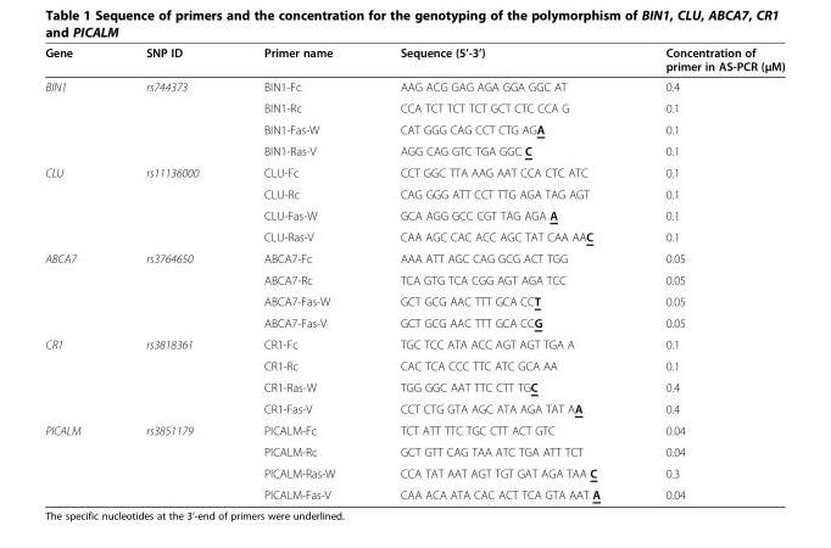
<table><thead><tr><td>Gene</td><td>SNP ID</td><td>Primer name</td><td>Sequence (5’-3’)</td><td>Concentration of primer in AS-PCR (μM)</td></tr></thead><tbody><tr><td rowspan="4">BIN1</td><td rowspan="4">rs744373</td><td>BIN1-Fc</td><td>AAG ACG GAG AGA GGA GGC AT</td><td>0.4</td></tr><tr><td>BIN1-Rc</td><td>CCA TCT TCT TCT GCT CTC CCA G</td><td>0.1</td></tr><tr><td>BIN1-Fas-W</td><td>CAT GGG CAG CCT CTG AGA</td><td>0.1</td></tr><tr><td>BIN1-Ras-V</td><td>AGG CAG GTC TGA GGC C</td><td>0.1</td></tr><tr><td rowspan="4">CLU</td><td rowspan="4">rs11136000</td><td>CLU-Fc</td><td>CCT GGC TTA AAG AAT CCA CTC ATC</td><td>0.1</td></tr><tr><td>CLU-Rc</td><td>CAG GGG ATT CCT TTG AGA TAG AGT</td><td>0.1</td></tr><tr><td>CLU-Fas-W</td><td>GCA AGG GCC CGT TAG AGA A</td><td>0.1</td></tr><tr><td>CLU-Ras-V</td><td>CAA AGC CAC ACC AGC TAT CAA AAC</td><td>0.1</td></tr><tr><td rowspan="4">ABCA7</td><td rowspan="4">rs3764650</td><td>ABCA7-Fc</td><td>AAA ATT AGC CAG GCG ACT TGG</td><td>0.05</td></tr><tr><td>ABCA7-Rc</td><td>TCA GTG TCA CGG AGT AGA TCC</td><td>0.05</td></tr><tr><td>ABCA7-Fas-W</td><td>GCT GCG AAC TTT GCA CCT</td><td>0.05</td></tr><tr><td>ABCA7-Fas-V</td><td>GCT GCG AAC TTT GCA CCG</td><td>0.05</td></tr><tr><td rowspan="4">CR1</td><td rowspan="4">rs3818361</td><td>CR1-Fc</td><td>TGC TCC ATA ACC AGT AGT TGA A</td><td>0.1</td></tr><tr><td>CR1-Rc</td><td>CAC TCA CCC TTC ATC GCA AA</td><td>0.1</td></tr><tr><td>CR1-Ras-W</td><td>TGG GGC AAT TTC CTT TGC</td><td>0.4</td></tr><tr><td>CR1-Fas-V</td><td>CCT CTG GTA AGC ATA AGA TAT AA</td><td>0.4</td></tr><tr><td rowspan="4">PICALM</td><td rowspan="4">rs3851179</td><td>PICALM-Fc</td><td>TCT ATT TTC TGC CTT ACT GTC</td><td>0.04</td></tr><tr><td>PICALM-Rc</td><td>GCT GTT CAG TAA ATC TGA ATT TCT</td><td>0.04</td></tr><tr><td>PICALM-Ras-W</td><td>CCA TAT AAT AGT TGT GAT AGA TAA C</td><td>0.3</td></tr><tr><td>PICALM-Fas-V</td><td>CAA ACA ATA CAC ACT TCA GTA AAT A</td><td>0.04</td></tr></tbody></table>